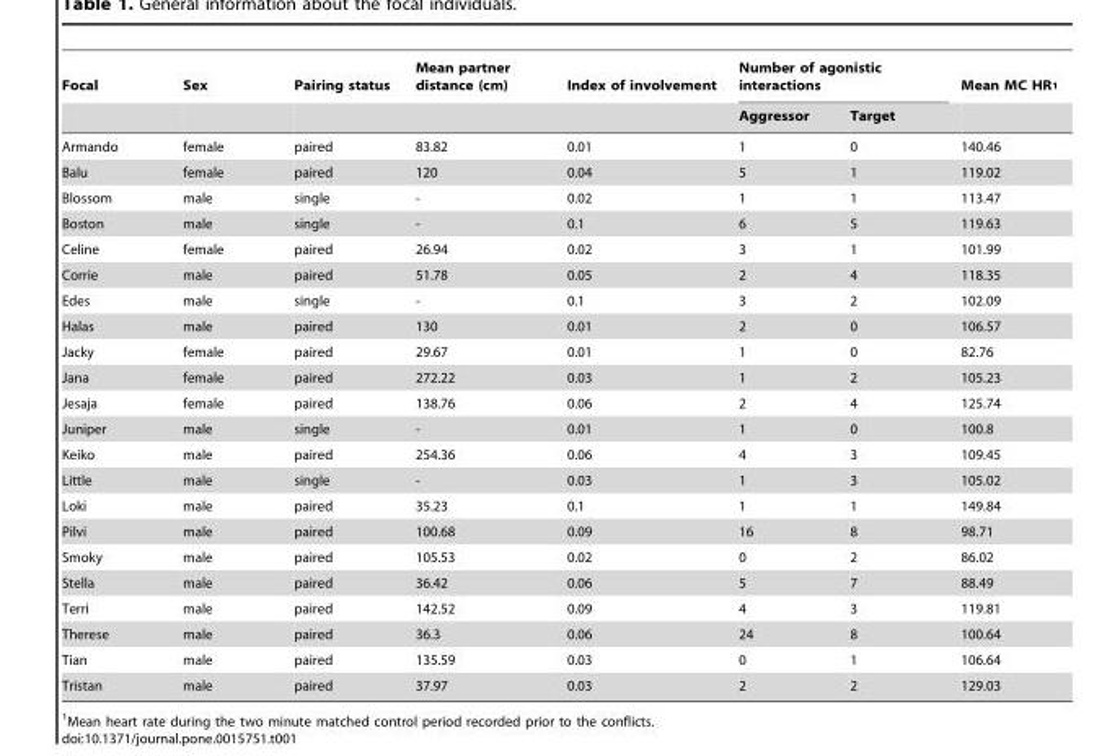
<table><thead><tr><td rowspan="2">Focal</td><td rowspan="2">Sex</td><td rowspan="2">Pairing status</td><td rowspan="2">Mean partner distance (cm)</td><td rowspan="2">Index of involvement</td><td colspan="2">Number of agonistic interactions</td><td rowspan="2">Mean MC HR<sup>1</sup></td></tr><tr><td>Aggressor</td><td>Target</td></tr></thead><tbody><tr><td>Armando</td><td>female</td><td>paired</td><td>83.82</td><td>0.01</td><td>1</td><td>0</td><td>140.46</td></tr><tr><td>Balu</td><td>female</td><td>paired</td><td>120</td><td>0.04</td><td>5</td><td>1</td><td>119.02</td></tr><tr><td>Blossom</td><td>male</td><td>single</td><td>-</td><td>0.02</td><td>1</td><td>1</td><td>113.47</td></tr><tr><td>Boston</td><td>male</td><td>single</td><td>-</td><td>0.1</td><td>6</td><td>5</td><td>119.63</td></tr><tr><td>Celine</td><td>female</td><td>paired</td><td>26.94</td><td>0.02</td><td>3</td><td>1</td><td>101.99</td></tr><tr><td>Corrie</td><td>male</td><td>paired</td><td>51.78</td><td>0.05</td><td>2</td><td>4</td><td>118.35</td></tr><tr><td>Edes</td><td>male</td><td>single</td><td>-</td><td>0.1</td><td>3</td><td>2</td><td>102.09</td></tr><tr><td>Halas</td><td>male</td><td>paired</td><td>130</td><td>0.01</td><td>2</td><td>0</td><td>106.57</td></tr><tr><td>Jacky</td><td>female</td><td>paired</td><td>29.67</td><td>0.01</td><td>1</td><td>0</td><td>82.76</td></tr><tr><td>Jana</td><td>female</td><td>paired</td><td>272.22</td><td>0.03</td><td>1</td><td>2</td><td>105.23</td></tr><tr><td>Jesaja</td><td>female</td><td>paired</td><td>138.76</td><td>0.06</td><td>2</td><td>4</td><td>125.74</td></tr><tr><td>Juniper</td><td>male</td><td>single</td><td>-</td><td>0.01</td><td>1</td><td>0</td><td>100.8</td></tr><tr><td>Keiko</td><td>male</td><td>paired</td><td>254.36</td><td>0.06</td><td>4</td><td>3</td><td>109.45</td></tr><tr><td>Little</td><td>male</td><td>single</td><td>-</td><td>0.03</td><td>1</td><td>3</td><td>105.02</td></tr><tr><td>Loki</td><td>male</td><td>paired</td><td>35.23</td><td>0.1</td><td>1</td><td>1</td><td>149.84</td></tr><tr><td>Pilvi</td><td>male</td><td>paired</td><td>100.68</td><td>0.09</td><td>16</td><td>8</td><td>98.71</td></tr><tr><td>Smoky</td><td>male</td><td>paired</td><td>105.53</td><td>0.02</td><td>0</td><td>2</td><td>86.02</td></tr><tr><td>Stella</td><td>male</td><td>paired</td><td>36.42</td><td>0.06</td><td>5</td><td>7</td><td>88.49</td></tr><tr><td>Terri</td><td>male</td><td>paired</td><td>142.52</td><td>0.09</td><td>4</td><td>3</td><td>119.81</td></tr><tr><td>Therese</td><td>male</td><td>paired</td><td>36.3</td><td>0.06</td><td>24</td><td>8</td><td>100.64</td></tr><tr><td>Tian</td><td>male</td><td>paired</td><td>135.59</td><td>0.03</td><td>0</td><td>1</td><td>106.64</td></tr><tr><td>Tristan</td><td>male</td><td>paired</td><td>37.97</td><td>0.03</td><td>2</td><td>2</td><td>129.03</td></tr></tbody></table>